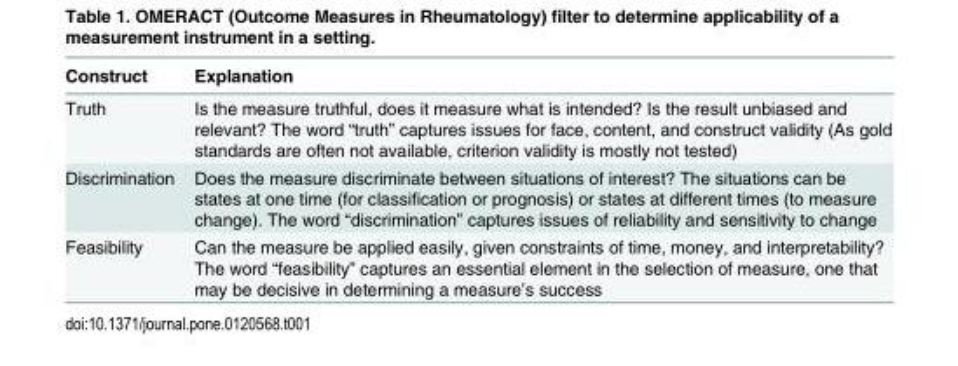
<table><thead><tr><td>Construct</td><td>Explanation</td></tr></thead><tbody><tr><td>Truth</td><td>Is the measure truthful, does it measure what is intended? Is the result unbiased and relevant? The word “truth” captures issues for face, content, and construct validity (As gold standards are often not available, criterion validity is mostly not tested)</td></tr><tr><td>Discrimination</td><td>Does the measure discriminate between situations of interest? The situations can be states at one time (for classification or prognosis) or states at different times (to measure change). The word “discrimination” captures issues of reliability and sensitivity to change</td></tr><tr><td>Feasibility</td><td>Can the measure be applied easily, given constraints of time, money, and interpretability? The word “feasibility” captures an essential element in the selection of measure, one that may be decisive in determining a measure’s success</td></tr></tbody></table>